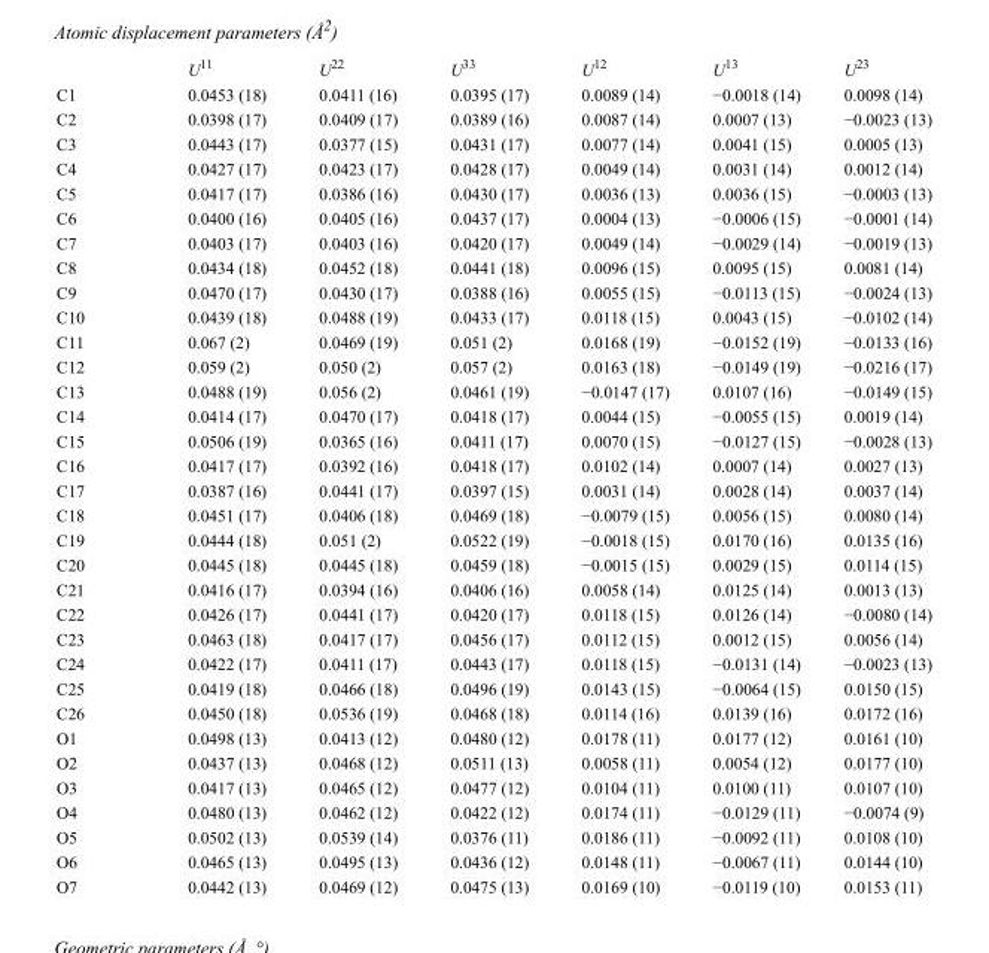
<table><thead><tr><td></td><td>U<sup>11</sup></td><td>U<sup>22</sup></td><td>U<sup>33</sup></td><td>U<sup>12</sup></td><td>U<sup>13</sup></td><td>U<sup>23</sup></td></tr></thead><tbody><tr><td>C1</td><td>0.0453 (18)</td><td>0.0411 (16)</td><td>0.0395 (17)</td><td>0.0089 (14)</td><td>−0.0018 (14)</td><td>0.0098 (14)</td></tr><tr><td>C2</td><td>0.0398 (17)</td><td>0.0409 (17)</td><td>0.0389 (16)</td><td>0.0087 (14)</td><td>0.0007 (13)</td><td>−0.0023 (13)</td></tr><tr><td>C3</td><td>0.0443 (17)</td><td>0.0377 (15)</td><td>0.0431 (17)</td><td>0.0077 (14)</td><td>0.0041 (15)</td><td>0.0005 (13)</td></tr><tr><td>C4</td><td>0.0427 (17)</td><td>0.0423 (17)</td><td>0.0428 (17)</td><td>0.0049 (14)</td><td>0.0031 (14)</td><td>0.0012 (14)</td></tr><tr><td>C5</td><td>0.0417 (17)</td><td>0.0386 (16)</td><td>0.0430 (17)</td><td>0.0036 (13)</td><td>0.0036 (15)</td><td>−0.0003 (13)</td></tr><tr><td>C6</td><td>0.0400 (16)</td><td>0.0405 (16)</td><td>0.0437 (17)</td><td>0.0004 (13)</td><td>−0.0006 (15)</td><td>−0.0001 (14)</td></tr><tr><td>C7</td><td>0.0403 (17)</td><td>0.0403 (16)</td><td>0.0420 (17)</td><td>0.0049 (14)</td><td>−0.0029 (14)</td><td>−0.0019 (13)</td></tr><tr><td>C8</td><td>0.0434 (18)</td><td>0.0452 (18)</td><td>0.0441 (18)</td><td>0.0096 (15)</td><td>0.0095 (15)</td><td>0.0081 (14)</td></tr><tr><td>C9</td><td>0.0470 (17)</td><td>0.0430 (17)</td><td>0.0388 (16)</td><td>0.0055 (15)</td><td>−0.0113 (15)</td><td>−0.0024 (13)</td></tr><tr><td>C10</td><td>0.0439 (18)</td><td>0.0488 (19)</td><td>0.0433 (17)</td><td>0.0118 (15)</td><td>0.0043 (15)</td><td>−0.0102 (14)</td></tr><tr><td>C11</td><td>0.067 (2)</td><td>0.0469 (19)</td><td>0.051 (2)</td><td>0.0168 (19)</td><td>−0.0152 (19)</td><td>−0.0133 (16)</td></tr><tr><td>C12</td><td>0.059 (2)</td><td>0.050 (2)</td><td>0.057 (2)</td><td>0.0163 (18)</td><td>−0.0149 (19)</td><td>−0.0216 (17)</td></tr><tr><td>C13</td><td>0.0488 (19)</td><td>0.056 (2)</td><td>0.0461 (19)</td><td>−0.0147 (17)</td><td>0.0107 (16)</td><td>−0.0149 (15)</td></tr><tr><td>C14</td><td>0.0414 (17)</td><td>0.0470 (17)</td><td>0.0418 (17)</td><td>0.0044 (15)</td><td>−0.0055 (15)</td><td>0.0019 (14)</td></tr><tr><td>C15</td><td>0.0506 (19)</td><td>0.0365 (16)</td><td>0.0411 (17)</td><td>0.0070 (15)</td><td>−0.0127 (15)</td><td>−0.0028 (13)</td></tr><tr><td>C16</td><td>0.0417 (17)</td><td>0.0392 (16)</td><td>0.0418 (17)</td><td>0.0102 (14)</td><td>0.0007 (14)</td><td>0.0027 (13)</td></tr><tr><td>C17</td><td>0.0387 (16)</td><td>0.0441 (17)</td><td>0.0397 (15)</td><td>0.0031 (14)</td><td>0.0028 (14)</td><td>0.0037 (14)</td></tr><tr><td>C18</td><td>0.0451 (17)</td><td>0.0406 (18)</td><td>0.0469 (18)</td><td>−0.0079 (15)</td><td>0.0056 (15)</td><td>0.0080 (14)</td></tr><tr><td>C19</td><td>0.0444 (18)</td><td>0.051 (2)</td><td>0.0522 (19)</td><td>−0.0018 (15)</td><td>0.0170 (16)</td><td>0.0135 (16)</td></tr><tr><td>C20</td><td>0.0445 (18)</td><td>0.0445 (18)</td><td>0.0459 (18)</td><td>−0.0015 (15)</td><td>0.0029 (15)</td><td>0.0114 (15)</td></tr><tr><td>C21</td><td>0.0416 (17)</td><td>0.0394 (16)</td><td>0.0406 (16)</td><td>0.0058 (14)</td><td>0.0125 (14)</td><td>0.0013 (13)</td></tr><tr><td>C22</td><td>0.0426 (17)</td><td>0.0441 (17)</td><td>0.0420 (17)</td><td>0.0118 (15)</td><td>0.0126 (14)</td><td>−0.0080 (14)</td></tr><tr><td>C23</td><td>0.0463 (18)</td><td>0.0417 (17)</td><td>0.0456 (17)</td><td>0.0112 (15)</td><td>0.0012 (15)</td><td>0.0056 (14)</td></tr><tr><td>C24</td><td>0.0422 (17)</td><td>0.0411 (17)</td><td>0.0443 (17)</td><td>0.0118 (15)</td><td>−0.0131 (14)</td><td>−0.0023 (13)</td></tr><tr><td>C25</td><td>0.0419 (18)</td><td>0.0466 (18)</td><td>0.0496 (19)</td><td>0.0143 (15)</td><td>−0.0064 (15)</td><td>0.0150 (15)</td></tr><tr><td>C26</td><td>0.0450 (18)</td><td>0.0536 (19)</td><td>0.0468 (18)</td><td>0.0114 (16)</td><td>0.0139 (16)</td><td>0.0172 (16)</td></tr><tr><td>O1</td><td>0.0498 (13)</td><td>0.0413 (12)</td><td>0.0480 (12)</td><td>0.0178 (11)</td><td>0.0177 (12)</td><td>0.0161 (10)</td></tr><tr><td>O2</td><td>0.0437 (13)</td><td>0.0468 (12)</td><td>0.0511 (13)</td><td>0.0058 (11)</td><td>0.0054 (12)</td><td>0.0177 (10)</td></tr><tr><td>O3</td><td>0.0417 (13)</td><td>0.0465 (12)</td><td>0.0477 (12)</td><td>0.0104 (11)</td><td>0.0100 (11)</td><td>0.0107 (10)</td></tr><tr><td>O4</td><td>0.0480 (13)</td><td>0.0462 (12)</td><td>0.0422 (12)</td><td>0.0174 (11)</td><td>−0.0129 (11)</td><td>−0.0074 (9)</td></tr><tr><td>O5</td><td>0.0502 (13)</td><td>0.0539 (14)</td><td>0.0376 (11)</td><td>0.0186 (11)</td><td>−0.0092 (11)</td><td>0.0108 (10)</td></tr><tr><td>O6</td><td>0.0465 (13)</td><td>0.0495 (13)</td><td>0.0436 (12)</td><td>0.0148 (11)</td><td>−0.0067 (11)</td><td>0.0144 (10)</td></tr><tr><td>O7</td><td>0.0442 (13)</td><td>0.0469 (12)</td><td>0.0475 (13)</td><td>0.0169 (10)</td><td>−0.0119 (10)</td><td>0.0153 (11)</td></tr></tbody></table>